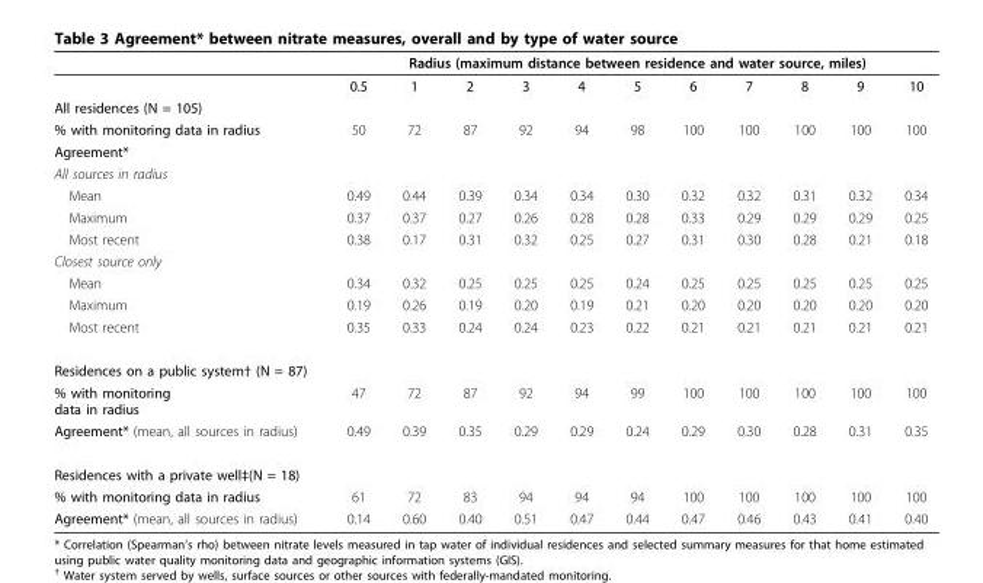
<table><thead><tr><td rowspan="2"></td><td colspan="11">Radius (maximum distance between residence and water source, miles)</td></tr><tr><td>0.5</td><td>1</td><td>2</td><td>3</td><td>4</td><td>5</td><td>6</td><td>7</td><td>8</td><td>9</td><td>10</td></tr></thead><tbody><tr><td colspan="12">All residences (N = 105)</td></tr><tr><td>% with monitoring data in radius</td><td>50</td><td>72</td><td>87</td><td>92</td><td>94</td><td>98</td><td>100</td><td>100</td><td>100</td><td>100</td><td>100</td></tr><tr><td colspan="12">Agreement*</td></tr><tr><td colspan="12">All sources in radius</td></tr><tr><td>Mean</td><td>0.49</td><td>0.44</td><td>0.39</td><td>0.34</td><td>0.34</td><td>0.30</td><td>0.32</td><td>0.32</td><td>0.31</td><td>0.32</td><td>0.34</td></tr><tr><td>Maximum</td><td>0.37</td><td>0.37</td><td>0.27</td><td>0.26</td><td>0.28</td><td>0.28</td><td>0.33</td><td>0.29</td><td>0.29</td><td>0.29</td><td>0.25</td></tr><tr><td>Most recent</td><td>0.38</td><td>0.17</td><td>0.31</td><td>0.32</td><td>0.25</td><td>0.27</td><td>0.31</td><td>0.30</td><td>0.28</td><td>0.21</td><td>0.18</td></tr><tr><td colspan="12">Closest source only</td></tr><tr><td>Mean</td><td>0.34</td><td>0.32</td><td>0.25</td><td>0.25</td><td>0.25</td><td>0.24</td><td>0.25</td><td>0.25</td><td>0.25</td><td>0.25</td><td>0.25</td></tr><tr><td>Maximum</td><td>0.19</td><td>0.26</td><td>0.19</td><td>0.20</td><td>0.19</td><td>0.21</td><td>0.20</td><td>0.20</td><td>0.20</td><td>0.20</td><td>0.20</td></tr><tr><td>Most recent</td><td>0.35</td><td>0.33</td><td>0.24</td><td>0.24</td><td>0.23</td><td>0.22</td><td>0.21</td><td>0.21</td><td>0.21</td><td>0.21</td><td>0.21</td></tr><tr><td colspan="12">Residences on a public system† (N = 87)</td></tr><tr><td>% with monitoring data in radius</td><td>47</td><td>72</td><td>87</td><td>92</td><td>94</td><td>99</td><td>100</td><td>100</td><td>100</td><td>100</td><td>100</td></tr><tr><td>Agreement* (mean, all sources in radius)</td><td>0.49</td><td>0.39</td><td>0.35</td><td>0.29</td><td>0.29</td><td>0.24</td><td>0.29</td><td>0.30</td><td>0.28</td><td>0.31</td><td>0.35</td></tr><tr><td colspan="12">Residences with a private well‡(N = 18)</td></tr><tr><td>% with monitoring data in radius</td><td>61</td><td>72</td><td>83</td><td>94</td><td>94</td><td>94</td><td>100</td><td>100</td><td>100</td><td>100</td><td>100</td></tr><tr><td>Agreement* (mean, all sources in radius)</td><td>0.14</td><td>0.60</td><td>0.40</td><td>0.51</td><td>0.47</td><td>0.44</td><td>0.47</td><td>0.46</td><td>0.43</td><td>0.41</td><td>0.40</td></tr></tbody></table>